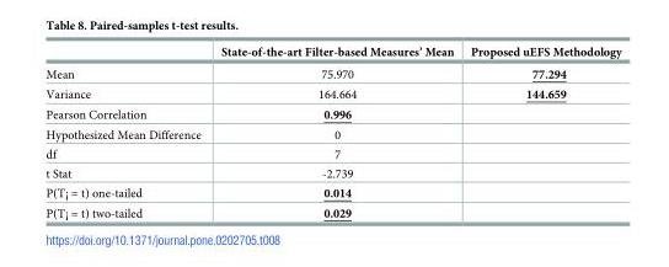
<table><thead><tr><td></td><td>State-of-the-art Filter-based Measures’ Mean</td><td>Proposed uEFS Methodology</td></tr></thead><tbody><tr><td>Mean</td><td>75.970</td><td>77.294</td></tr><tr><td>Variance</td><td>164.664</td><td>144.659</td></tr><tr><td>Pearson Correlation</td><td>0.996</td><td></td></tr><tr><td>Hypothesized Mean Difference</td><td>0</td><td></td></tr><tr><td>df</td><td>7</td><td></td></tr><tr><td>t Stat</td><td>-2.739</td><td></td></tr><tr><td>P(T¡ = t) one-tailed</td><td>0.014</td><td></td></tr><tr><td>P(T¡ = t) two-tailed</td><td>0.029</td><td></td></tr></tbody></table>